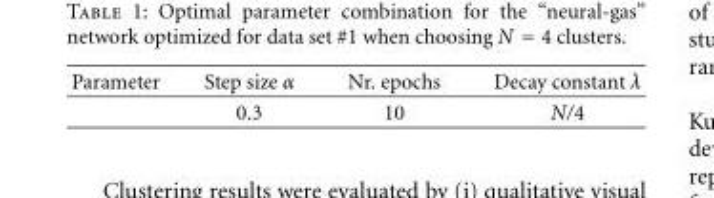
<table><thead><tr><td>Parameter</td><td>Step size α</td><td>Nr. epochs</td><td>Decay constant λ</td></tr></thead><tbody><tr><td></td><td>0.3</td><td>10</td><td>N/4</td></tr></tbody></table>